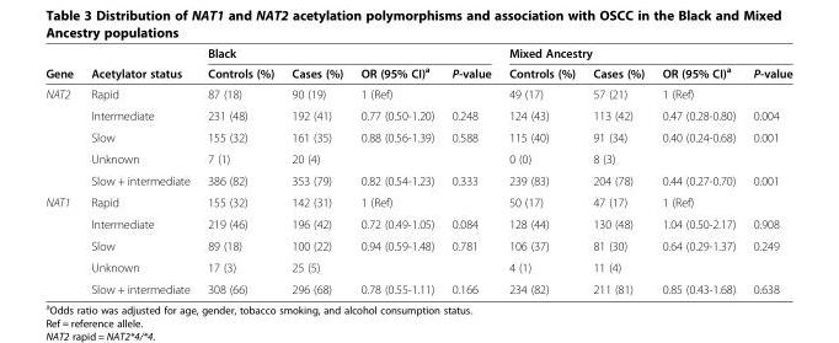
<table><thead><tr><td rowspan="2">Gene</td><td rowspan="2">Acetylator status</td><td colspan="4">Black</td><td colspan="4">Mixed Ancestry</td></tr><tr><td>Controls (%)</td><td>Cases (%)</td><td>OR (95% CI)<sup>a</sup></td><td>P-value</td><td>Controls (%)</td><td>Cases (%)</td><td>OR (95% CI)<sup>a</sup></td><td>P-value</td></tr></thead><tbody><tr><td rowspan="5">NAT2</td><td>Rapid</td><td>87 (18)</td><td>90 (19)</td><td>1 (Ref)</td><td></td><td>49 (17)</td><td>57 (21)</td><td>1 (Ref)</td><td></td></tr><tr><td>Intermediate</td><td>231 (48)</td><td>192 (41)</td><td>0.77 (0.50-1.20)</td><td>0.248</td><td>124 (43)</td><td>113 (42)</td><td>0.47 (0.28-0.80)</td><td>0.004</td></tr><tr><td>Slow</td><td>155 (32)</td><td>161 (35)</td><td>0.88 (0.56-1.39)</td><td>0.588</td><td>115 (40)</td><td>91 (34)</td><td>0.40 (0.24-0.68)</td><td>0.001</td></tr><tr><td>Unknown</td><td>7 (1)</td><td>20 (4)</td><td></td><td></td><td>0 (0)</td><td>8 (3)</td><td></td><td></td></tr><tr><td>Slow + intermediate</td><td>386 (82)</td><td>353 (79)</td><td>0.82 (0.54-1.23)</td><td>0.333</td><td>239 (83)</td><td>204 (78)</td><td>0.44 (0.27-0.70)</td><td>0.001</td></tr><tr><td rowspan="5">NAT1</td><td>Rapid</td><td>155 (32)</td><td>142 (31)</td><td>1 (Ref)</td><td></td><td>50 (17)</td><td>47 (17)</td><td>1 (Ref)</td><td></td></tr><tr><td>Intermediate</td><td>219 (46)</td><td>196 (42)</td><td>0.72 (0.49-1.05)</td><td>0.084</td><td>128 (44)</td><td>130 (48)</td><td>1.04 (0.50-2.17)</td><td>0.908</td></tr><tr><td>Slow</td><td>89 (18)</td><td>100 (22)</td><td>0.94 (0.59-1.48)</td><td>0.781</td><td>106 (37)</td><td>81 (30)</td><td>0.64 (0.29-1.37)</td><td>0.249</td></tr><tr><td>Unknown</td><td>17 (3)</td><td>25 (5)</td><td></td><td></td><td>4 (1)</td><td>11 (4)</td><td></td><td></td></tr><tr><td>Slow + intermediate</td><td>308 (66)</td><td>296 (68)</td><td>0.78 (0.55-1.11)</td><td>0.166</td><td>234 (82)</td><td>211 (81)</td><td>0.85 (0.43-1.68)</td><td>0.638</td></tr></tbody></table>